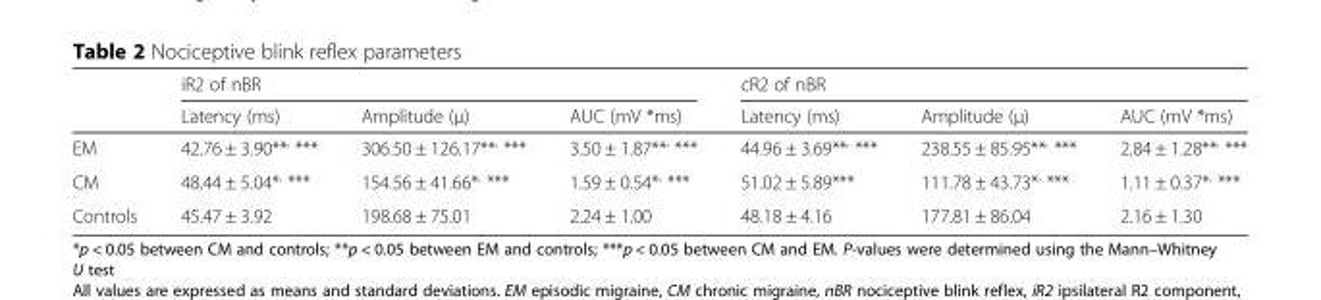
<table><thead><tr><td rowspan="2"></td><td colspan="3">iR2 of nBR</td><td colspan="3">cR2 of nBR</td></tr><tr><td>Latency (ms)</td><td>Amplitude (μ)</td><td>AUC (mV *ms)</td><td>Latency (ms)</td><td>Amplitude (μ)</td><td>AUC (mV *ms)</td></tr></thead><tbody><tr><td>EM</td><td>42.76 ± 3.90**<sup>,</sup> ***</td><td>306.50 ± 126.17**<sup>,</sup> ***</td><td>3.50 ± 1.87**<sup>,</sup> ***</td><td>44.96 ± 3.69**<sup>,</sup> ***</td><td>238.55 ± 85.95**<sup>,</sup> ***</td><td>2.84 ± 1.28**<sup>,</sup> ***</td></tr><tr><td>CM</td><td>48.44 ± 5.04*<sup>,</sup> ***</td><td>154.56 ± 41.66*<sup>,</sup> ***</td><td>1.59 ± 0.54*<sup>,</sup> ***</td><td>51.02 ± 5.89***</td><td>111.78 ± 43.73*<sup>,</sup> ***</td><td>1.11 ± 0.37*<sup>,</sup> ***</td></tr><tr><td>Controls</td><td>45.47 ± 3.92</td><td>198.68 ± 75.01</td><td>2.24 ± 1.00</td><td>48.18 ± 4.16</td><td>177.81 ± 86.04</td><td>2.16 ± 1.30</td></tr></tbody></table>